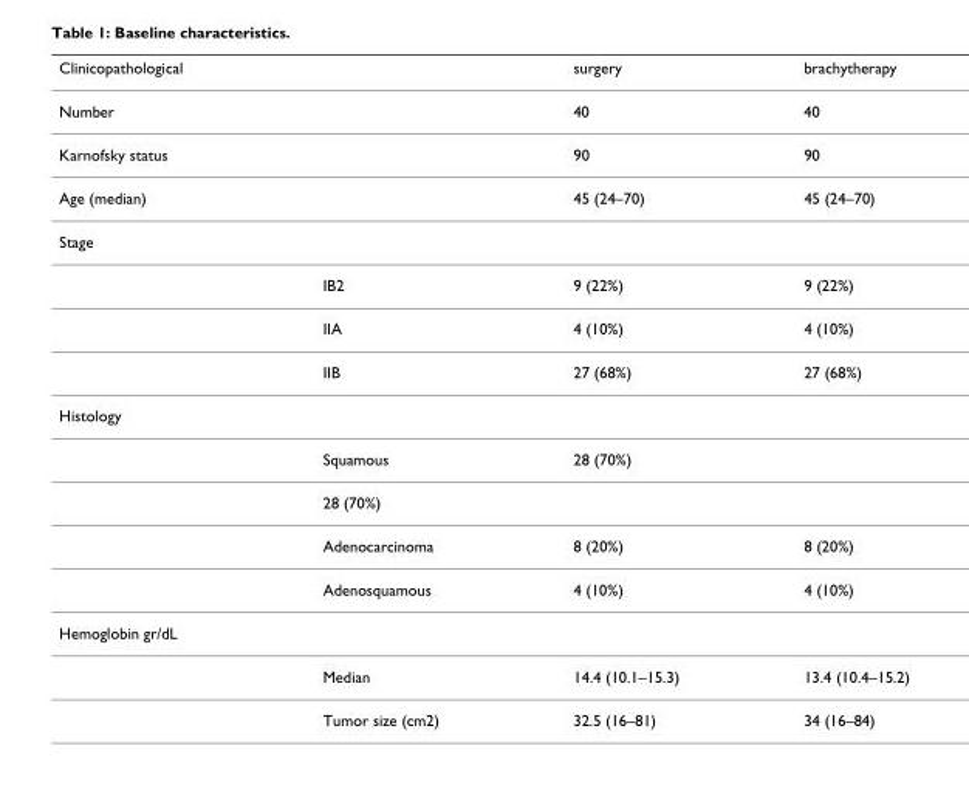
<table><thead><tr><td>Clinicopathological</td><td></td><td>surgery</td><td>brachytherapy</td></tr></thead><tbody><tr><td>Number</td><td></td><td>40</td><td>40</td></tr><tr><td>Karnofsky status</td><td></td><td>90</td><td>90</td></tr><tr><td>Age (median)</td><td></td><td>45 (24–70)</td><td>45 (24–70)</td></tr><tr><td colspan="4">Stage</td></tr><tr><td></td><td>IB2</td><td>9 (22%)</td><td>9 (22%)</td></tr><tr><td></td><td>IIA</td><td>4 (10%)</td><td>4 (10%)</td></tr><tr><td></td><td>IIB</td><td>27 (68%)</td><td>27 (68%)</td></tr><tr><td colspan="4">Histology</td></tr><tr><td></td><td>Squamous</td><td>28 (70%)</td><td></td></tr><tr><td></td><td>28 (70%)</td><td></td><td></td></tr><tr><td></td><td>Adenocarcinoma</td><td>8 (20%)</td><td>8 (20%)</td></tr><tr><td></td><td>Adenosquamous</td><td>4 (10%)</td><td>4 (10%)</td></tr><tr><td colspan="4">Hemoglobin gr/dL</td></tr><tr><td></td><td>Median</td><td>14.4 (10.1–15.3)</td><td>13.4 (10.4–15.2)</td></tr><tr><td></td><td>Tumor size (cm2)</td><td>32.5 (16–81)</td><td>34 (16–84)</td></tr></tbody></table>